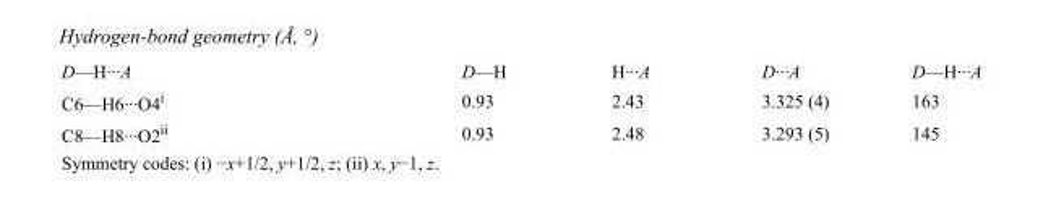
<table><tbody><tr><td>D—H···A</td><td>D—H</td><td>H···A</td><td>D···A</td><td>D—H···A</td></tr><tr><td>C6—H6···O4<sup>i</sup></td><td>0.93</td><td>2.43</td><td>3.325 (4)</td><td>163</td></tr><tr><td>C8—H8···O2<sup>ii</sup></td><td>0.93</td><td>2.48</td><td>3.293 (5)</td><td>145</td></tr></tbody></table>